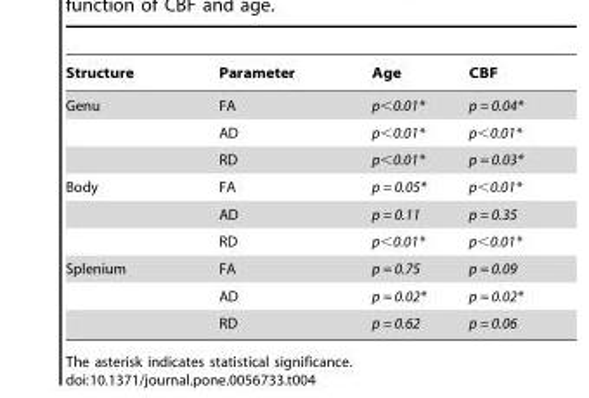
<table><thead><tr><td>Structure</td><td>Parameter</td><td>Age</td><td>CBF</td></tr></thead><tbody><tr><td rowspan="3">Genu</td><td>FA</td><td>p&lt;0.01*</td><td>p = 0.04*</td></tr><tr><td>AD</td><td>p&lt;0.01*</td><td>p&lt;0.01*</td></tr><tr><td>RD</td><td>p&lt;0.01*</td><td>p = 0.03*</td></tr><tr><td rowspan="3">Body</td><td>FA</td><td>p = 0.05*</td><td>p&lt;0.01*</td></tr><tr><td>AD</td><td>p = 0.11</td><td>p = 0.35</td></tr><tr><td>RD</td><td>p&lt;0.01*</td><td>p&lt;0.01*</td></tr><tr><td rowspan="3">Splenium</td><td>FA</td><td>p = 0.75</td><td>p = 0.09</td></tr><tr><td>AD</td><td>p = 0.02*</td><td>p = 0.02*</td></tr><tr><td>RD</td><td>p = 0.62</td><td>p = 0.06</td></tr></tbody></table>